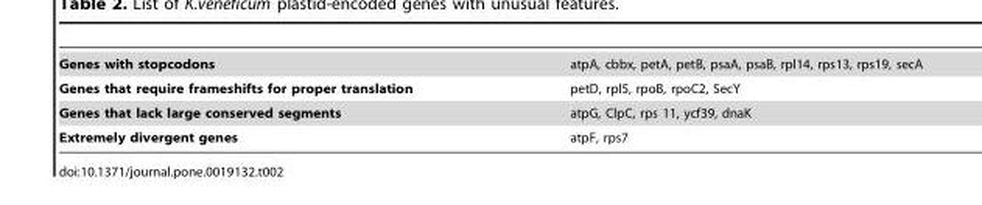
<table><tbody><tr><td>Genes with stopcodons</td><td>atpA, cbbx, petA, petB, psaA, psaB, rpl14, rps13, rps19, secA</td></tr><tr><td>Genes that require frameshifts for proper translation</td><td>petD, rpl5, rpoB, rpoC2, SecY</td></tr><tr><td>Genes that lack large conserved segments</td><td>atpG, ClpC, rps 11, ycf39, dnaK</td></tr><tr><td>Extremely divergent genes</td><td>atpF, rps7</td></tr></tbody></table>